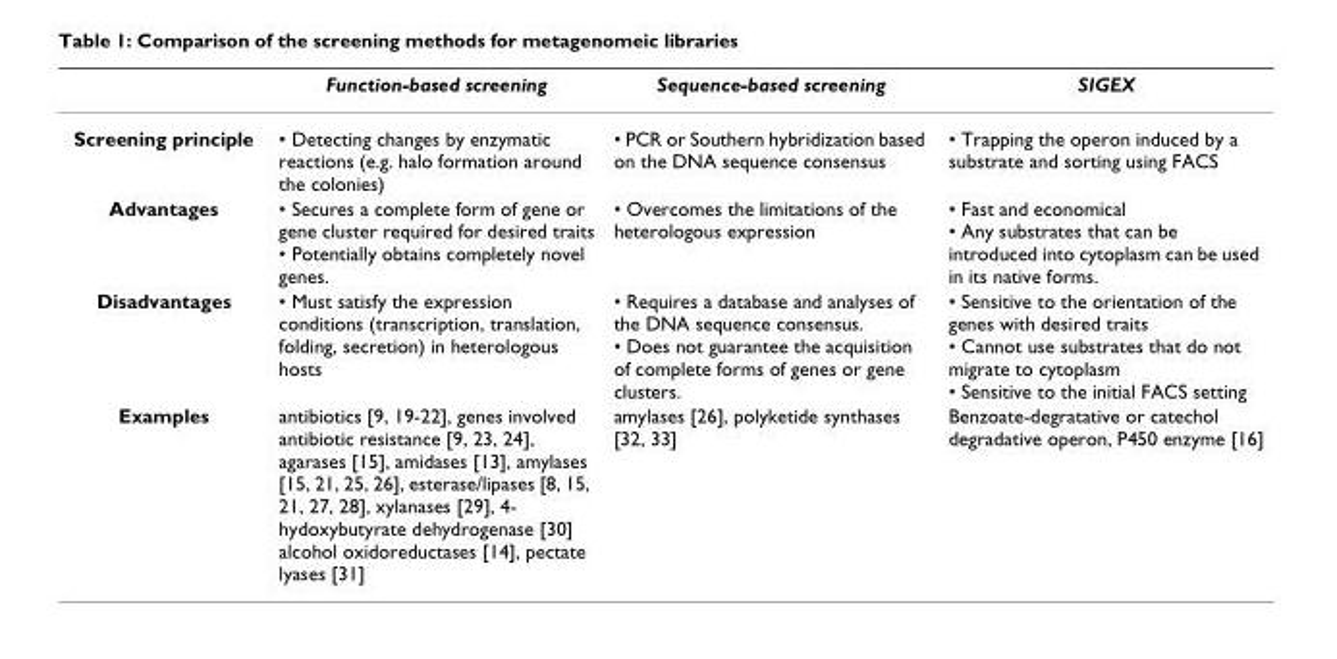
<table><thead><tr><td></td><td>Function-based screening</td><td>Sequence-based screening</td><td>SIGEX</td></tr></thead><tbody><tr><td>Screening principle</td><td>• Detecting changes by enzymatic reactions (e.g. halo formation around the colonies)</td><td>• PCR or Southern hybridization based on the DNA sequence consensus</td><td>• Trapping the operon induced by a substrate and sorting using FACS</td></tr><tr><td>Advantages</td><td>• Secures a complete form of gene or gene cluster required for desired traits • Potentially obtains completely novel genes.</td><td>• Overcomes the limitations of the heterologous expression</td><td>• Fast and economical • Any substrates that can be introduced into cytoplasm can be used in its native forms.</td></tr><tr><td>Disadvantages</td><td>• Must satisfy the expression conditions (transcription, translation, folding, secretion) in heterologous hosts</td><td>• Requires a database and analyses of the DNA sequence consensus. • Does not guarantee the acquisition of complete forms of genes or gene clusters.</td><td>• Sensitive to the orientation of the genes with desired traits • Cannot use substrates that do not migrate to cytoplasm • Sensitive to the initial FACS setting</td></tr><tr><td>Examples</td><td>antibiotics [9, 19-22], genes involved antibiotic resistance [9, 23, 24], agarases [15], amidases [13], amylases [15, 21, 25, 26], esterase/lipases [8, 15, 21, 27, 28], xylanases [29], 4- hydoxybutyrate dehydrogenase [30] alcohol oxidoreductases [14], pectate lyases [31]</td><td>amylases [26], polyketide synthases [32, 33]</td><td>Benzoate-degratative or catechol degradative operon, P450 enzyme [16]</td></tr></tbody></table>